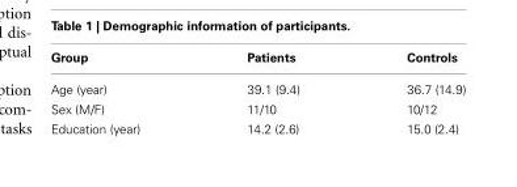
<table><thead><tr><td>Group</td><td>Patients</td><td>Controls</td></tr></thead><tbody><tr><td>Age (year)</td><td>39.1 (9.4)</td><td>36.7 (14.9)</td></tr><tr><td>Sex (M/F)</td><td>11/10</td><td>10/12</td></tr><tr><td>Education (year)</td><td>14.2 (2.6)</td><td>15.0 (2.4)</td></tr></tbody></table>